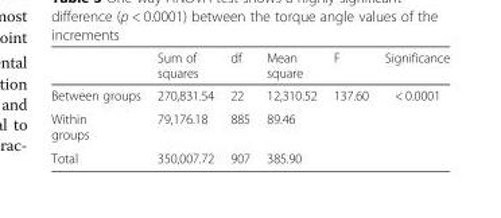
<table><thead><tr><td></td><td>Sum of squares</td><td>df</td><td>Mean square</td><td>F</td><td>Significance</td></tr></thead><tbody><tr><td>Between groups</td><td>270,831.54</td><td>22</td><td>12,310.52</td><td>137.60</td><td>&lt; 0.0001</td></tr><tr><td>Within groups</td><td>79,176.18</td><td>885</td><td>89.46</td><td></td><td></td></tr><tr><td>Total</td><td>350,007.72</td><td>907</td><td>385.90</td><td></td><td></td></tr></tbody></table>